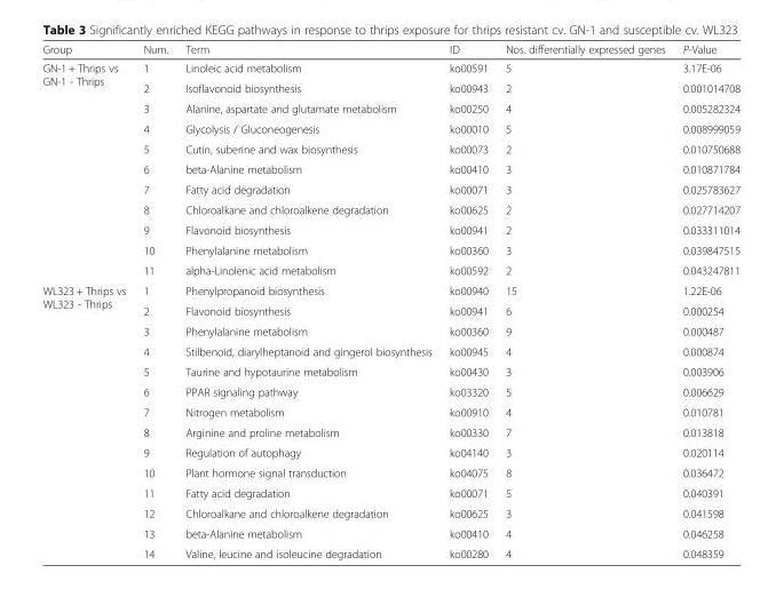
<table><thead><tr><td>Group</td><td>Num.</td><td>Term</td><td>ID</td><td>Nos. differentially expressed genes</td><td>P-Value</td></tr></thead><tbody><tr><td rowspan="11">GN-1 + Thrips vs GN-1 - Thrips</td><td>1</td><td>Linoleic acid metabolism</td><td>ko00591</td><td>5</td><td>3.17E-06</td></tr><tr><td>2</td><td>Isoflavonoid biosynthesis</td><td>ko00943</td><td>2</td><td>0.001014708</td></tr><tr><td>3</td><td>Alanine, aspartate and glutamate metabolism</td><td>ko00250</td><td>4</td><td>0.005282324</td></tr><tr><td>4</td><td>Glycolysis / Gluconeogenesis</td><td>ko00010</td><td>5</td><td>0.008999059</td></tr><tr><td>5</td><td>Cutin, suberine and wax biosynthesis</td><td>ko00073</td><td>2</td><td>0.010750688</td></tr><tr><td>6</td><td>beta-Alanine metabolism</td><td>ko00410</td><td>3</td><td>0.010871784</td></tr><tr><td>7</td><td>Fatty acid degradation</td><td>ko00071</td><td>3</td><td>0.025783627</td></tr><tr><td>8</td><td>Chloroalkane and chloroalkene degradation</td><td>ko00625</td><td>2</td><td>0.027714207</td></tr><tr><td>9</td><td>Flavonoid biosynthesis</td><td>ko00941</td><td>2</td><td>0.033311014</td></tr><tr><td>10</td><td>Phenylalanine metabolism</td><td>ko00360</td><td>3</td><td>0.039847515</td></tr><tr><td>11</td><td>alpha-Linolenic acid metabolism</td><td>ko00592</td><td>2</td><td>0.043247811</td></tr><tr><td rowspan="14">WL323 + Thrips vs WL323 - Thrips</td><td>1</td><td>Phenylpropanoid biosynthesis</td><td>ko00940</td><td>15</td><td>1.22E-06</td></tr><tr><td>2</td><td>Flavonoid biosynthesis</td><td>ko00941</td><td>6</td><td>0.000254</td></tr><tr><td>3</td><td>Phenylalanine metabolism</td><td>ko00360</td><td>9</td><td>0.000487</td></tr><tr><td>4</td><td>Stilbenoid, diarylheptanoid and gingerol biosynthesis</td><td>ko00945</td><td>4</td><td>0.000874</td></tr><tr><td>5</td><td>Taurine and hypotaurine metabolism</td><td>ko00430</td><td>3</td><td>0.003906</td></tr><tr><td>6</td><td>PPAR signaling pathway</td><td>ko03320</td><td>5</td><td>0.006629</td></tr><tr><td>7</td><td>Nitrogen metabolism</td><td>ko00910</td><td>4</td><td>0.010781</td></tr><tr><td>8</td><td>Arginine and proline metabolism</td><td>ko00330</td><td>7</td><td>0.013818</td></tr><tr><td>9</td><td>Regulation of autophagy</td><td>ko04140</td><td>3</td><td>0.020114</td></tr><tr><td>10</td><td>Plant hormone signal transduction</td><td>ko04075</td><td>8</td><td>0.036472</td></tr><tr><td>11</td><td>Fatty acid degradation</td><td>ko00071</td><td>5</td><td>0.040391</td></tr><tr><td>12</td><td>Chloroalkane and chloroalkene degradation</td><td>ko00625</td><td>3</td><td>0.041598</td></tr><tr><td>13</td><td>beta-Alanine metabolism</td><td>ko00410</td><td>4</td><td>0.046258</td></tr><tr><td>14</td><td>Valine, leucine and isoleucine degradation</td><td>ko00280</td><td>4</td><td>0.048359</td></tr></tbody></table>